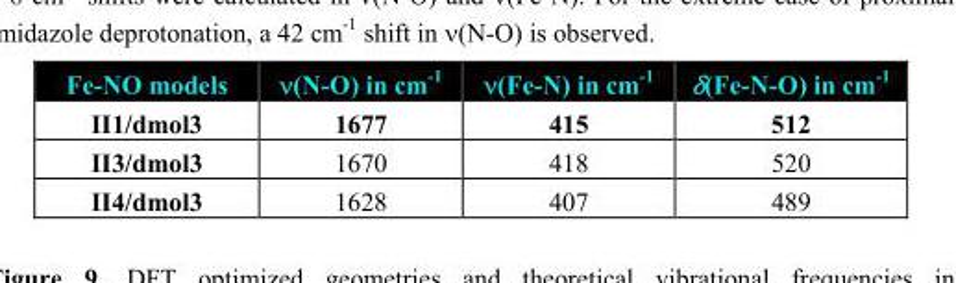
<table><thead><tr><td>Fe-NO models</td><td>ν(N-O) in cm<sup>-1</sup></td><td>ν(Fe-N) in cm<sup>-1</sup></td><td>δ(Fe-N-O) in cm<sup>-1</sup></td></tr></thead><tbody><tr><td>II1/dmol3</td><td>1677</td><td>415</td><td>512</td></tr><tr><td>II3/dmol3</td><td>1670</td><td>418</td><td>520</td></tr><tr><td>II4/dmol3</td><td>1628</td><td>407</td><td>489</td></tr></tbody></table>